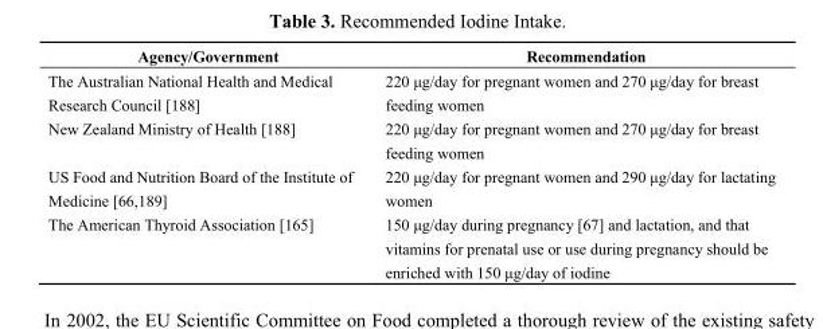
<table><thead><tr><td>Agency/Government</td><td>Recommendation</td></tr></thead><tbody><tr><td>The Australian National Health and Medical Research Council [188]</td><td>220 μg/day for pregnant women and 270 μg/day for breast feeding women</td></tr><tr><td>New Zealand Ministry of Health [188]</td><td>220 μg/day for pregnant women and 270 μg/day for breast feeding women</td></tr><tr><td>US Food and Nutrition Board of the Institute of Medicine [66,189]</td><td>220 μg/day for pregnant women and 290 μg/day for lactating women</td></tr><tr><td>The American Thyroid Association [165]</td><td>150 μg/day during pregnancy [67] and lactation, and that vitamins for prenatal use or use during pregnancy should be enriched with 150 μg/day of iodine</td></tr></tbody></table>